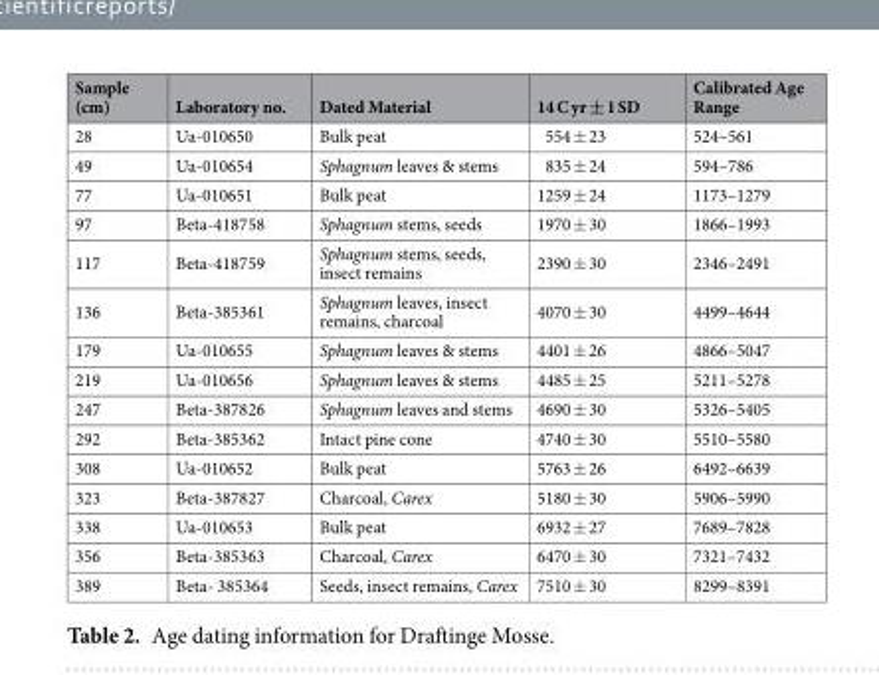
<table><thead><tr><td>Sample (cm)</td><td>Laboratory no.</td><td>Dated Material</td><td>14 C yr ± 1 SD</td><td>Calibrated Age Range</td></tr></thead><tbody><tr><td>28</td><td>Ua-010650</td><td>Bulk peat</td><td>554 ± 23</td><td>524–561</td></tr><tr><td>49</td><td>Ua-010654</td><td>Sphagnum leaves &amp; stems</td><td>835 ± 24</td><td>594–786</td></tr><tr><td>77</td><td>Ua-010651</td><td>Bulk peat</td><td>1259 ± 24</td><td>1173–1279</td></tr><tr><td>97</td><td>Beta-418758</td><td>Sphagnum stems, seeds</td><td>1970 ± 30</td><td>1866–1993</td></tr><tr><td>117</td><td>Beta-418759</td><td>Sphagnum stems, seeds, insect remains</td><td>2390 ± 30</td><td>2346–2491</td></tr><tr><td>136</td><td>Beta-385361</td><td>Sphagnum leaves, insect remains, charcoal</td><td>4070 ± 30</td><td>4499–4644</td></tr><tr><td>179</td><td>Ua-010655</td><td>Sphagnum leaves &amp; stems</td><td>4401 ± 26</td><td>4866–5047</td></tr><tr><td>219</td><td>Ua-010656</td><td>Sphagnum leaves &amp; stems</td><td>4485 ± 25</td><td>5211–5278</td></tr><tr><td>247</td><td>Beta-387826</td><td>Sphagnum leaves and stems</td><td>4690 ± 30</td><td>5326–5405</td></tr><tr><td>292</td><td>Beta-385362</td><td>Intact pine cone</td><td>4740 ± 30</td><td>5510–5580</td></tr><tr><td>308</td><td>Ua-010652</td><td>Bulk peat</td><td>5763 ± 26</td><td>6492–6639</td></tr><tr><td>323</td><td>Beta-387827</td><td>Charcoal, Carex</td><td>5180 ± 30</td><td>5906–5990</td></tr><tr><td>338</td><td>Ua-010653</td><td>Bulk peat</td><td>6932 ± 27</td><td>7689–7828</td></tr><tr><td>356</td><td>Beta-385363</td><td>Charcoal, Carex</td><td>6470 ± 30</td><td>7321–7432</td></tr><tr><td>389</td><td>Beta- 385364</td><td>Seeds, insect remains, Carex</td><td>7510 ± 30</td><td>8299–8391</td></tr></tbody></table>